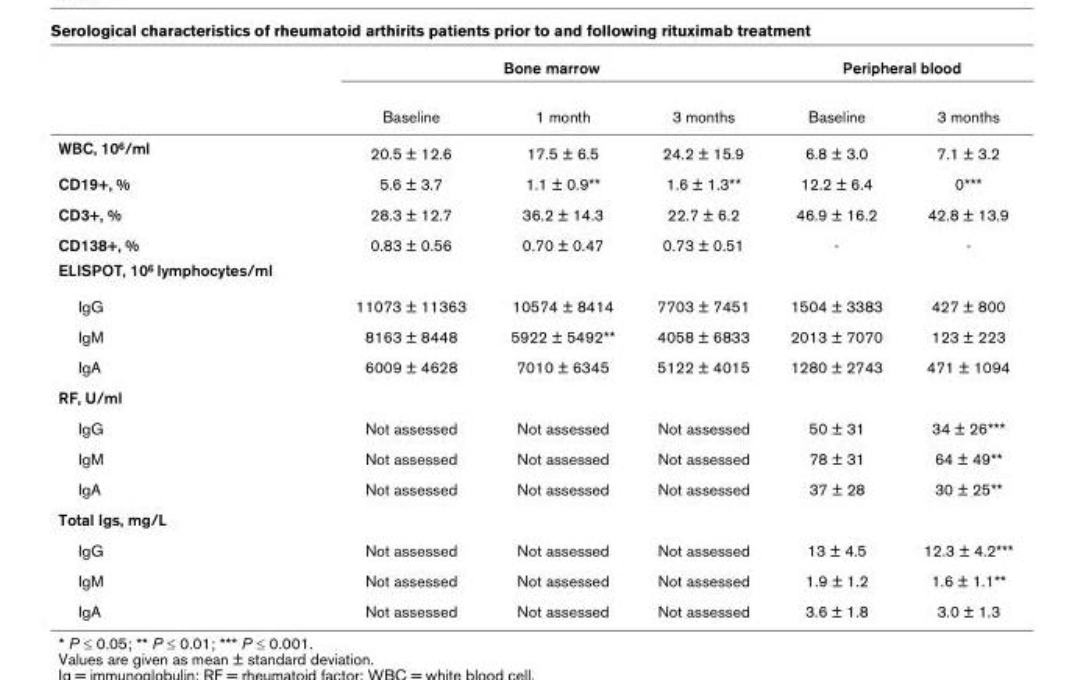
<table><thead><tr><td rowspan="2"></td><td colspan="3">Bone marrow</td><td colspan="2">Peripheral blood</td></tr><tr><td>Baseline</td><td>1 month</td><td>3 months</td><td>Baseline</td><td>3 months</td></tr></thead><tbody><tr><td>WBC, 10<sup>6</sup>/ml</td><td>20.5 ± 12.6</td><td>17.5 ± 6.5</td><td>24.2 ± 15.9</td><td>6.8 ± 3.0</td><td>7.1 ± 3.2</td></tr><tr><td>CD19+, %</td><td>5.6 ± 3.7</td><td>1.1 ± 0.9**</td><td>1.6 ± 1.3**</td><td>12.2 ± 6.4</td><td>0***</td></tr><tr><td>CD3+, %</td><td>28.3 ± 12.7</td><td>36.2 ± 14.3</td><td>22.7 ± 6.2</td><td>46.9 ± 16.2</td><td>42.8 ± 13.9</td></tr><tr><td>CD138+, %</td><td>0.83 ± 0.56</td><td>0.70 ± 0.47</td><td>0.73 ± 0.51</td><td>-</td><td>-</td></tr><tr><td colspan="6">ELISPOT, 10<sup>6</sup> lymphocytes/ml</td></tr><tr><td>IgG</td><td>11073 ± 11363</td><td>10574 ± 8414</td><td>7703 ± 7451</td><td>1504 ± 3383</td><td>427 ± 800</td></tr><tr><td>IgM</td><td>8163 ± 8448</td><td>5922 ± 5492**</td><td>4058 ± 6833</td><td>2013 ± 7070</td><td>123 ± 223</td></tr><tr><td>IgA</td><td>6009 ± 4628</td><td>7010 ± 6345</td><td>5122 ± 4015</td><td>1280 ± 2743</td><td>471 ± 1094</td></tr><tr><td colspan="6">RF, U/ml</td></tr><tr><td>IgG</td><td>Not assessed</td><td>Not assessed</td><td>Not assessed</td><td>50 ± 31</td><td>34 ± 26***</td></tr><tr><td>IgM</td><td>Not assessed</td><td>Not assessed</td><td>Not assessed</td><td>78 ± 31</td><td>64 ± 49**</td></tr><tr><td>IgA</td><td>Not assessed</td><td>Not assessed</td><td>Not assessed</td><td>37 ± 28</td><td>30 ± 25**</td></tr><tr><td colspan="6">Total Igs, mg/L</td></tr><tr><td>IgG</td><td>Not assessed</td><td>Not assessed</td><td>Not assessed</td><td>13 ± 4.5</td><td>12.3 ± 4.2***</td></tr><tr><td>IgM</td><td>Not assessed</td><td>Not assessed</td><td>Not assessed</td><td>1.9 ± 1.2</td><td>1.6 ± 1.1**</td></tr><tr><td>IgA</td><td>Not assessed</td><td>Not assessed</td><td>Not assessed</td><td>3.6 ± 1.8</td><td>3.0 ± 1.3</td></tr></tbody></table>